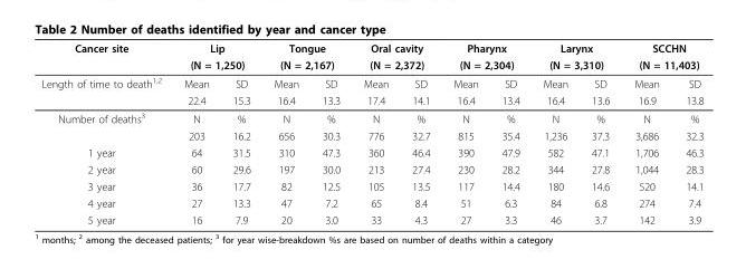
<table><thead><tr><td rowspan="3">Cancer site Length of time to death1,2</td><td rowspan="2" colspan="2">Lip (N = 1,250)</td><td rowspan="2" colspan="2">Tongue (N = 2,167)</td><td rowspan="2" colspan="2">Oral cavity (N = 2,372)</td><td rowspan="2" colspan="2">Pharynx (N = 2,304)</td><td rowspan="2" colspan="2">Larynx (N = 3,310)</td><td rowspan="2" colspan="2">SCCHN (N = 11,403)</td></tr><tr></tr><tr><td>Mean</td><td>SD</td><td>Mean</td><td>SD</td><td>Mean</td><td>SD</td><td>Mean</td><td>SD</td><td>Mean</td><td>SD</td><td>Mean</td><td>SD</td></tr></thead><tbody><tr><td></td><td>22.4</td><td>15.3</td><td>16.4</td><td>13.3</td><td>17.4</td><td>14.1</td><td>16.4</td><td>13.4</td><td>16.4</td><td>13.6</td><td>16.9</td><td>13.8</td></tr><tr><td rowspan="2">Number of deaths<sup>3</sup></td><td>N</td><td>%</td><td>N</td><td>%</td><td>N</td><td>%</td><td>N</td><td>%</td><td>N</td><td>%</td><td>N</td><td>%</td></tr><tr><td>203</td><td>16.2</td><td>656</td><td>30.3</td><td>776</td><td>32.7</td><td>815</td><td>35.4</td><td>1,236</td><td>37.3</td><td>3,686</td><td>32.3</td></tr><tr><td>1 year</td><td>64</td><td>31.5</td><td>310</td><td>47.3</td><td>360</td><td>46.4</td><td>390</td><td>47.9</td><td>582</td><td>47.1</td><td>1,706</td><td>46.3</td></tr><tr><td>2 year</td><td>60</td><td>29.6</td><td>197</td><td>30.0</td><td>213</td><td>27.4</td><td>230</td><td>28.2</td><td>344</td><td>27.8</td><td>1,044</td><td>28.3</td></tr><tr><td>3 year</td><td>36</td><td>17.7</td><td>82</td><td>12.5</td><td>105</td><td>13.5</td><td>117</td><td>14.4</td><td>180</td><td>14.6</td><td>520</td><td>14.1</td></tr><tr><td>4 year</td><td>27</td><td>13.3</td><td>47</td><td>7.2</td><td>65</td><td>8.4</td><td>51</td><td>6.3</td><td>84</td><td>6.8</td><td>274</td><td>7.4</td></tr><tr><td>5 year</td><td>16</td><td>7.9</td><td>20</td><td>3.0</td><td>33</td><td>4.3</td><td>27</td><td>3.3</td><td>46</td><td>3.7</td><td>142</td><td>3.9</td></tr></tbody></table>